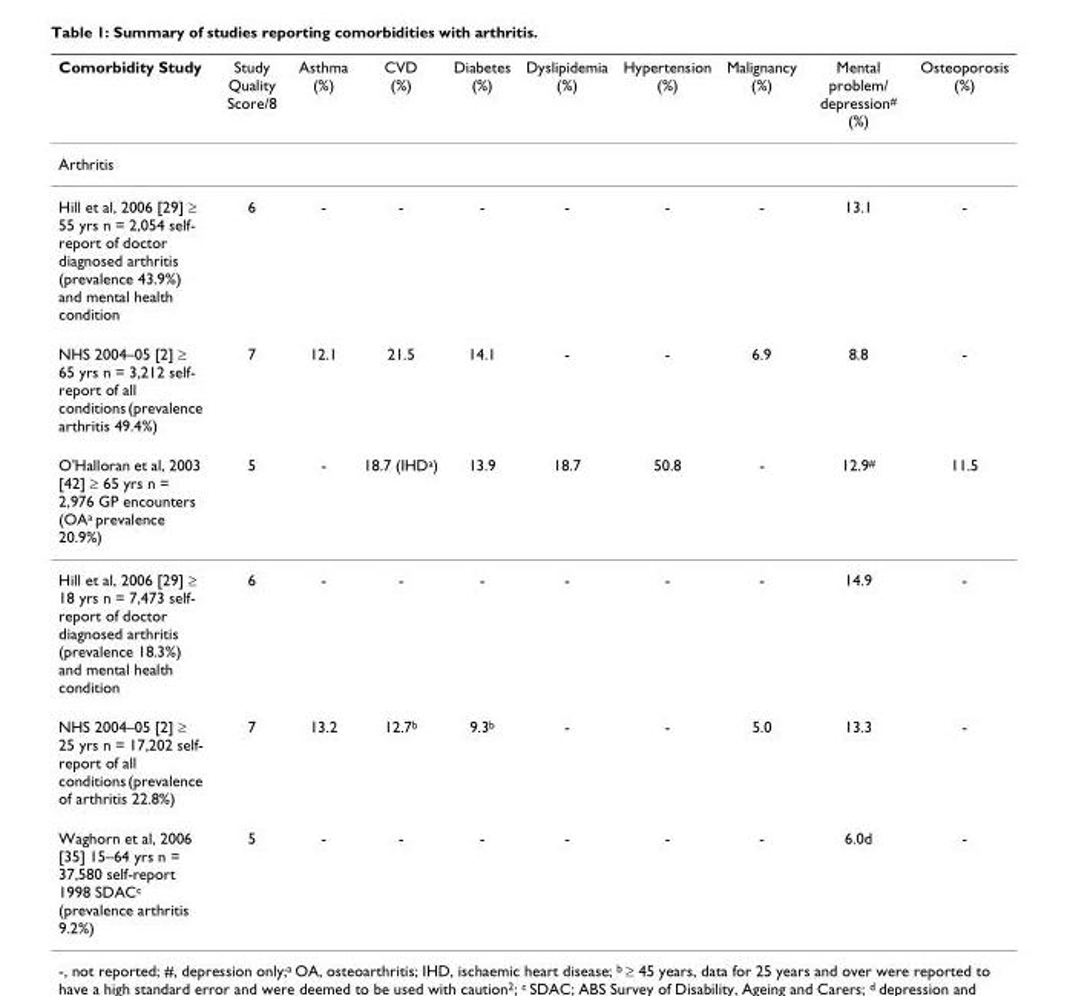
<table><thead><tr><td>Comorbidity Study</td><td>Study Quality Score/8</td><td>Asthma (%)</td><td>CVD (%)</td><td>Diabetes (%)</td><td>Dyslipidemia (%)</td><td>Hypertension (%)</td><td>Malignancy (%)</td><td>Mental problem/ depression# (%)</td><td>Osteoporosis (%)</td></tr></thead><tbody><tr><td colspan="10">Arthritis</td></tr><tr><td>Hill et al, 2006 [29] ≥ 55 yrs n = 2,054 self- report of doctor diagnosed arthritis (prevalence 43.9%) and mental health condition</td><td>6</td><td>-</td><td>-</td><td>-</td><td>-</td><td>-</td><td>-</td><td>13.1</td><td>-</td></tr><tr><td>NHS 2004–05 [2] ≥ 65 yrs n = 3,212 self- report of all conditions (prevalence arthritis 49.4%)</td><td>7</td><td>12.1</td><td>21.5</td><td>14.1</td><td>-</td><td>-</td><td>6.9</td><td>8.8</td><td>-</td></tr><tr><td>O&#x27;Halloran et al, 2003 [42] ≥ 65 yrs n = 2,976 GP encounters (OAa prevalence 20.9%)</td><td>5</td><td>-</td><td>18.7 (IHDa)</td><td>13.9</td><td>18.7</td><td>50.8</td><td>-</td><td>12.9#</td><td>11.5</td></tr><tr><td>Hill et al, 2006 [29] ≥ 18 yrs n = 7,473 self- report of doctor diagnosed arthritis (prevalence 18.3%) and mental health condition</td><td>6</td><td>-</td><td>-</td><td>-</td><td>-</td><td>-</td><td>-</td><td>14.9</td><td>-</td></tr><tr><td>NHS 2004–05 [2] ≥ 25 yrs n = 17,202 self- report of all conditions (prevalence of arthritis 22.8%)</td><td>7</td><td>13.2</td><td>12.7b</td><td>9.3b</td><td>-</td><td>-</td><td>5.0</td><td>13.3</td><td>-</td></tr><tr><td>Waghorn et al, 2006 [35] 15–64 yrs n = 37,580 self-report 1998 SDACc (prevalence arthritis 9.2%)</td><td>5</td><td>-</td><td>-</td><td>-</td><td>-</td><td>-</td><td>-</td><td>6.0d</td><td>-</td></tr></tbody></table>